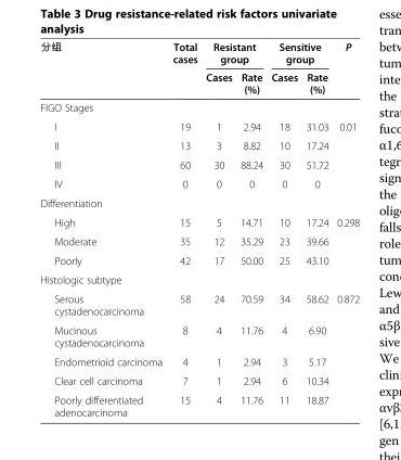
<table><thead><tr><td rowspan="2">分组</td><td rowspan="2">Total cases</td><td colspan="2">Resistant group</td><td colspan="2">Sensitive group</td><td rowspan="2">P</td></tr><tr><td>Cases</td><td>Rate (%)</td><td>Cases</td><td>Rate (%)</td></tr></thead><tbody><tr><td colspan="7">FIGO Stages</td></tr><tr><td>I</td><td>19</td><td>1</td><td>2.94</td><td>18</td><td>31.03</td><td rowspan="4">0.01</td></tr><tr><td>II</td><td>13</td><td>3</td><td>8.82</td><td>10</td><td>17.24</td></tr><tr><td>III</td><td>60</td><td>30</td><td>88.24</td><td>30</td><td>51.72</td></tr><tr><td>IV</td><td>0</td><td>0</td><td>0</td><td>0</td><td>0</td></tr><tr><td colspan="7">Differentiation</td></tr><tr><td>High</td><td>15</td><td>5</td><td>14.71</td><td>10</td><td>17.24</td><td rowspan="3">0.298</td></tr><tr><td>Moderate</td><td>35</td><td>12</td><td>35.29</td><td>23</td><td>39.66</td></tr><tr><td>Poorly</td><td>42</td><td>17</td><td>50.00</td><td>25</td><td>43.10</td></tr><tr><td colspan="7">Histologic subtype</td></tr><tr><td>Serous cystadenocarcinoma</td><td>58</td><td>24</td><td>70.59</td><td>34</td><td>58.62</td><td rowspan="5">0.872</td></tr><tr><td>Mucinous cystadenocarcinoma</td><td>8</td><td>4</td><td>11.76</td><td>4</td><td>6.90</td></tr><tr><td>Endometrioid carcinoma</td><td>4</td><td>1</td><td>2.94</td><td>3</td><td>5.17</td></tr><tr><td>Clear cell carcinoma</td><td>7</td><td>1</td><td>2.94</td><td>6</td><td>10.34</td></tr><tr><td>Poorly differentiated adenocarcinoma</td><td>15</td><td>4</td><td>11.76</td><td>11</td><td>18.87</td></tr></tbody></table>